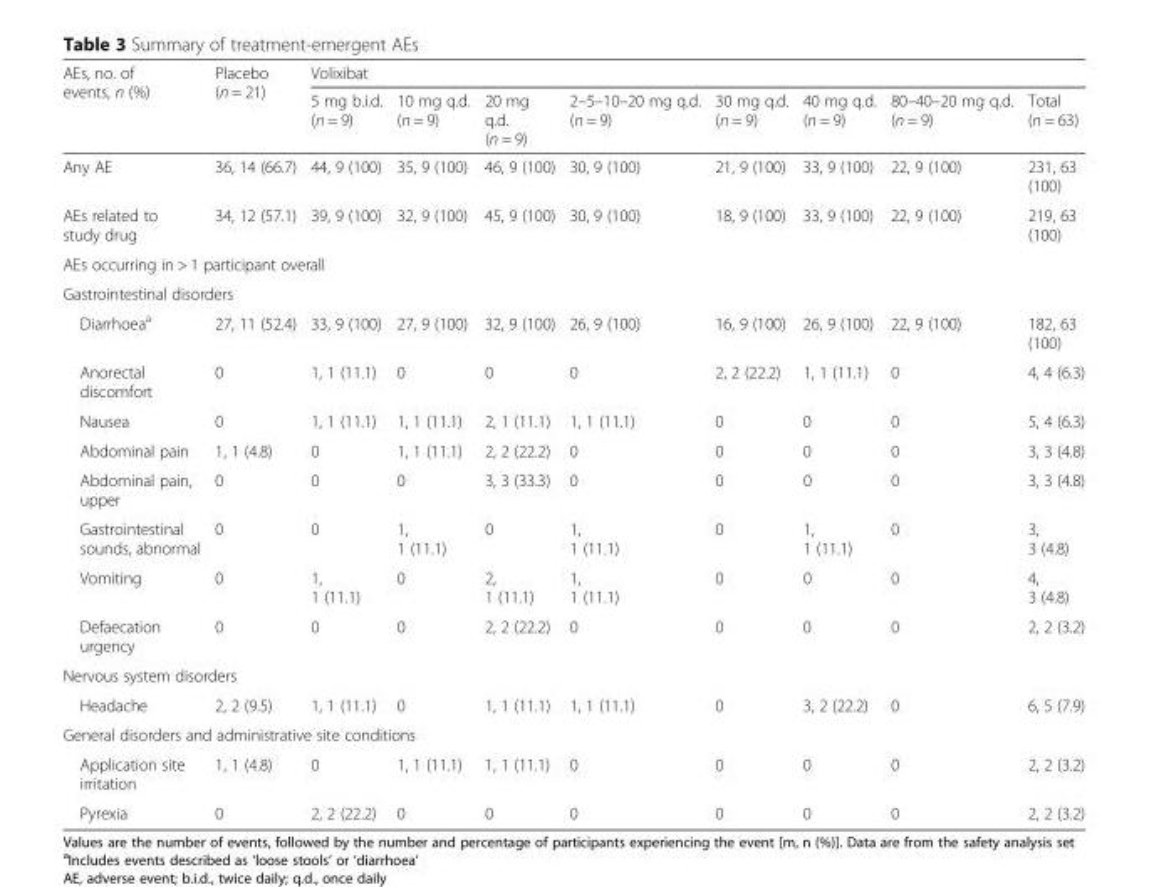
<table><thead><tr><td rowspan="2">AEs, no. of events, n (%)</td><td rowspan="2">Placebo (n = 21)</td><td colspan="8">Volixibat</td></tr><tr><td>5 mg b.i.d. (n = 9)</td><td>10 mg q.d. (n = 9)</td><td>20 mg q.d. (n = 9)</td><td>2–5–10–20 mg q.d. (n = 9)</td><td>30 mg q.d. (n = 9)</td><td>40 mg q.d. (n = 9)</td><td>80–40–20 mg q.d. (n = 9)</td><td>Total (n = 63)</td></tr></thead><tbody><tr><td>Any AE</td><td>36, 14 (66.7)</td><td>44, 9 (100)</td><td>35, 9 (100)</td><td>46, 9 (100)</td><td>30, 9 (100)</td><td>21, 9 (100)</td><td>33, 9 (100)</td><td>22, 9 (100)</td><td>231, 63 (100)</td></tr><tr><td>AEs related to study drug</td><td>34, 12 (57.1)</td><td>39, 9 (100)</td><td>32, 9 (100)</td><td>45, 9 (100)</td><td>30, 9 (100)</td><td>18, 9 (100)</td><td>33, 9 (100)</td><td>22, 9 (100)</td><td>219, 63 (100)</td></tr><tr><td colspan="10">AEs occurring in &gt; 1 participant overall</td></tr><tr><td colspan="10">Gastrointestinal disorders</td></tr><tr><td>Diarrhoea<sup>a</sup></td><td>27, 11 (52.4)</td><td>33, 9 (100)</td><td>27, 9 (100)</td><td>32, 9 (100)</td><td>26, 9 (100)</td><td>16, 9 (100)</td><td>26, 9 (100)</td><td>22, 9 (100)</td><td>182, 63 (100)</td></tr><tr><td>Anorectal discomfort</td><td>0</td><td>1, 1 (11.1)</td><td>0</td><td>0</td><td>0</td><td>2, 2 (22.2)</td><td>1, 1 (11.1)</td><td>0</td><td>4, 4 (6.3)</td></tr><tr><td>Nausea</td><td>0</td><td>1, 1 (11.1)</td><td>1, 1 (11.1)</td><td>2, 1 (11.1)</td><td>1, 1 (11.1)</td><td>0</td><td>0</td><td>0</td><td>5, 4 (6.3)</td></tr><tr><td>Abdominal pain</td><td>1, 1 (4.8)</td><td>0</td><td>1, 1 (11.1)</td><td>2, 2 (22.2)</td><td>0</td><td>0</td><td>0</td><td>0</td><td>3, 3 (4.8)</td></tr><tr><td>Abdominal pain, upper</td><td>0</td><td>0</td><td>0</td><td>3, 3 (33.3)</td><td>0</td><td>0</td><td>0</td><td>0</td><td>3, 3 (4.8)</td></tr><tr><td>Gastrointestinal sounds, abnormal</td><td>0</td><td>0</td><td>1, 1 (11.1)</td><td>0</td><td>1, 1 (11.1)</td><td>0</td><td>1, 1 (11.1)</td><td>0</td><td>3, 3 (4.8)</td></tr><tr><td>Vomiting</td><td>0</td><td>1, 1 (11.1)</td><td>0</td><td>2, 1 (11.1)</td><td>1, 1 (11.1)</td><td>0</td><td>0</td><td>0</td><td>4, 3 (4.8)</td></tr><tr><td>Defaecation urgency</td><td>0</td><td>0</td><td>0</td><td>2, 2 (22.2)</td><td>0</td><td>0</td><td>0</td><td>0</td><td>2, 2 (3.2)</td></tr><tr><td colspan="10">Nervous system disorders</td></tr><tr><td>Headache</td><td>2, 2 (9.5)</td><td>1, 1 (11.1)</td><td>0</td><td>1, 1 (11.1)</td><td>1, 1 (11.1)</td><td>0</td><td>3, 2 (22.2)</td><td>0</td><td>6, 5 (7.9)</td></tr><tr><td colspan="10">General disorders and administrative site conditions</td></tr><tr><td>Application site irritation</td><td>1, 1 (4.8)</td><td>0</td><td>1, 1 (11.1)</td><td>1, 1 (11.1)</td><td>0</td><td>0</td><td>0</td><td>0</td><td>2, 2 (3.2)</td></tr><tr><td>Pyrexia</td><td>0</td><td>2, 2 (22.2)</td><td>0</td><td>0</td><td>0</td><td>0</td><td>0</td><td>0</td><td>2, 2 (3.2)</td></tr></tbody></table>